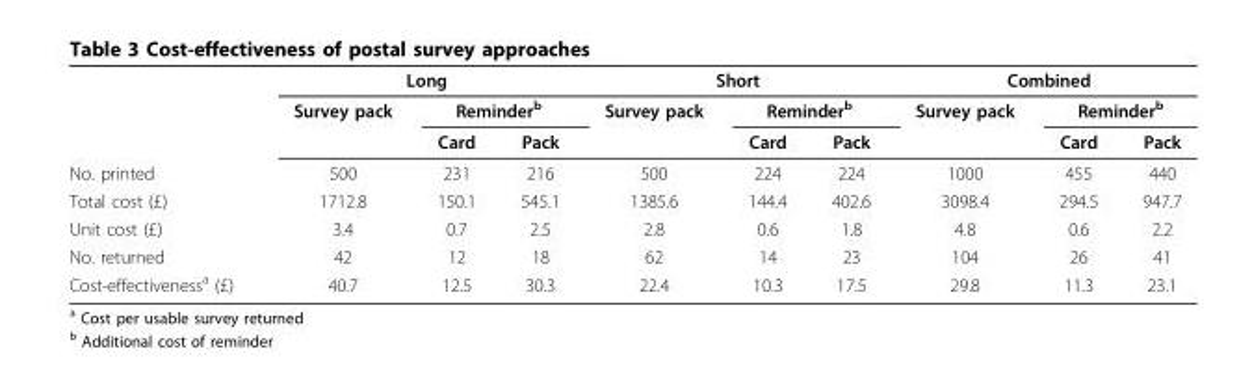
<table><thead><tr><td rowspan="3"></td><td colspan="3">Long</td><td colspan="3">Short</td><td colspan="3">Combined</td></tr><tr><td rowspan="2">Survey pack</td><td colspan="2">Reminder<sup>b</sup></td><td rowspan="2">Survey pack</td><td colspan="2">Reminder<sup>b</sup></td><td rowspan="2">Survey pack</td><td colspan="2">Reminder<sup>b</sup></td></tr><tr><td>Card</td><td>Pack</td><td>Card</td><td>Pack</td><td>Card</td><td>Pack</td></tr></thead><tbody><tr><td>No. printed</td><td>500</td><td>231</td><td>216</td><td>500</td><td>224</td><td>224</td><td>1000</td><td>455</td><td>440</td></tr><tr><td>Total cost (£)</td><td>1712.8</td><td>150.1</td><td>545.1</td><td>1385.6</td><td>144.4</td><td>402.6</td><td>3098.4</td><td>294.5</td><td>947.7</td></tr><tr><td>Unit cost (£)</td><td>3.4</td><td>0.7</td><td>2.5</td><td>2.8</td><td>0.6</td><td>1.8</td><td>4.8</td><td>0.6</td><td>2.2</td></tr><tr><td>No. returned</td><td>42</td><td>12</td><td>18</td><td>62</td><td>14</td><td>23</td><td>104</td><td>26</td><td>41</td></tr><tr><td>Cost-effectiveness<sup>a</sup> (£)</td><td>40.7</td><td>12.5</td><td>30.3</td><td>22.4</td><td>10.3</td><td>17.5</td><td>29.8</td><td>11.3</td><td>23.1</td></tr></tbody></table>